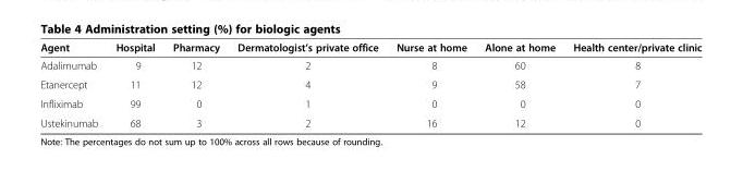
<table><thead><tr><td>Agent</td><td>Hospital</td><td>Pharmacy</td><td>Dermatologist’s private office</td><td>Nurse at home</td><td>Alone at home</td><td>Health center/private clinic</td></tr></thead><tbody><tr><td>Adalimumab</td><td>9</td><td>12</td><td>2</td><td>8</td><td>60</td><td>8</td></tr><tr><td>Etanercept</td><td>11</td><td>12</td><td>4</td><td>9</td><td>58</td><td>7</td></tr><tr><td>Infliximab</td><td>99</td><td>0</td><td>1</td><td>0</td><td>0</td><td>0</td></tr><tr><td>Ustekinumab</td><td>68</td><td>3</td><td>2</td><td>16</td><td>12</td><td>0</td></tr></tbody></table>